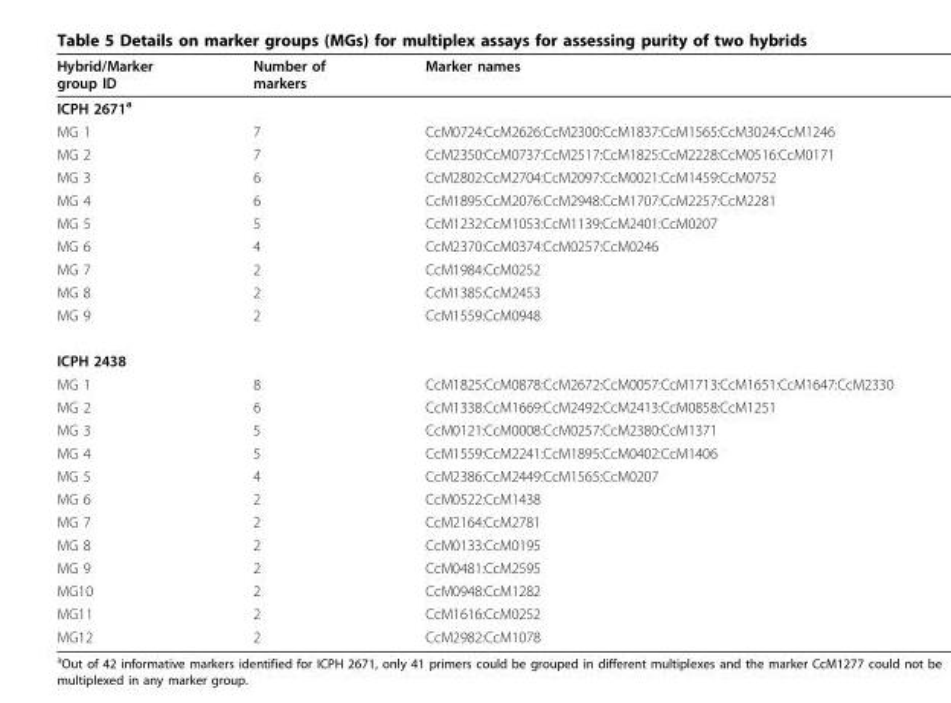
<table><thead><tr><td>Hybrid/Marker group ID</td><td>Number of markers</td><td>Marker names</td></tr></thead><tbody><tr><td colspan="3">ICPH 2671<sup>a</sup></td></tr><tr><td>MG 1</td><td>7</td><td>CcM0724:CcM2626:CcM2300:CcM1837:CcM1565:CcM3024:CcM1246</td></tr><tr><td>MG 2</td><td>7</td><td>CcM2350:CcM0737:CcM2517:CcM1825:CcM2228:CcM0516:CcM0171</td></tr><tr><td>MG 3</td><td>6</td><td>CcM2802:CcM2704:CcM2097:CcM0021:CcM1459:CcM0752</td></tr><tr><td>MG 4</td><td>6</td><td>CcM1895:CcM2076:CcM2948:CcM1707:CcM2257:CcM2281</td></tr><tr><td>MG 5</td><td>5</td><td>CcM1232:CcM1053:CcM1139:CcM2401:CcM0207</td></tr><tr><td>MG 6</td><td>4</td><td>CcM2370:CcM0374:CcM0257:CcM0246</td></tr><tr><td>MG 7</td><td>2</td><td>CcM1984:CcM0252</td></tr><tr><td>MG 8</td><td>2</td><td>CcM1385:CcM2453</td></tr><tr><td>MG 9</td><td>2</td><td>CcM1559:CcM0948</td></tr><tr><td colspan="3">ICPH 2438</td></tr><tr><td>MG 1</td><td>8</td><td>CcM1825:CcM0878:CcM2672:CcM0057:CcM1713:CcM1651:CcM1647:CcM2330</td></tr><tr><td>MG 2</td><td>6</td><td>CcM1338:CcM1669:CcM2492:CcM2413:CcM0858:CcM1251</td></tr><tr><td>MG 3</td><td>5</td><td>CcM0121:CcM0008:CcM0257:CcM2380:CcM1371</td></tr><tr><td>MG 4</td><td>5</td><td>CcM1559:CcM2241:CcM1895:CcM0402:CcM1406</td></tr><tr><td>MG 5</td><td>4</td><td>CcM2386:CcM2449:CcM1565:CcM0207</td></tr><tr><td>MG 6</td><td>2</td><td>CcM0522:CcM1438</td></tr><tr><td>MG 7</td><td>2</td><td>CcM2164:CcM2781</td></tr><tr><td>MG 8</td><td>2</td><td>CcM0133:CcM0195</td></tr><tr><td>MG 9</td><td>2</td><td>CcM0481:CcM2595</td></tr><tr><td>MG10</td><td>2</td><td>CcM0948:CcM1282</td></tr><tr><td>MG11</td><td>2</td><td>CcM1616:CcM0252</td></tr><tr><td>MG12</td><td>2</td><td>CcM2982:CcM1078</td></tr></tbody></table>